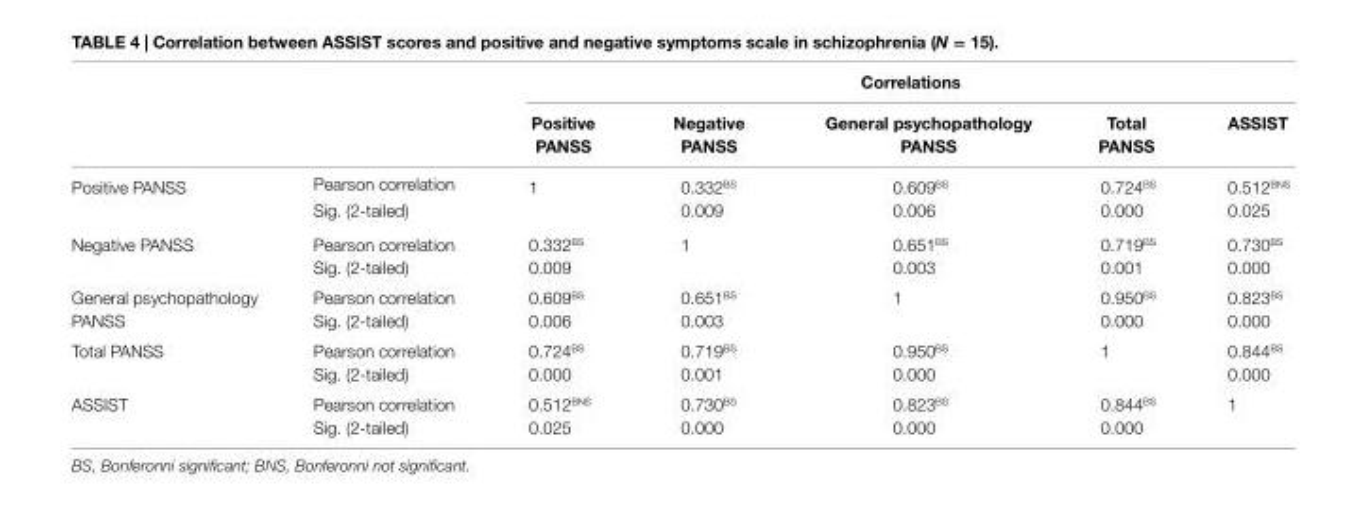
<table><thead><tr><td rowspan="2"></td><td rowspan="2"></td><td colspan="5">correlations</td></tr><tr><td>Positive Panss</td><td>negative Panss</td><td>general psychopathology Panss</td><td>Total Panss</td><td>assisT</td></tr></thead><tbody><tr><td rowspan="2">Positive PANSS</td><td>Pearson correlation</td><td>1</td><td>0.332<sup>BS</sup></td><td>0.609<sup>BS</sup></td><td>0.724<sup>BS</sup></td><td>0.512<sup>BNS</sup></td></tr><tr><td>Sig. (2-tailed)</td><td></td><td>0.009</td><td>0.006</td><td>0.000</td><td>0.025</td></tr><tr><td rowspan="2">Negative PANSS</td><td>Pearson correlation</td><td>0.332<sup>BS</sup></td><td>1</td><td>0.651<sup>BS</sup></td><td>0.719<sup>BS</sup></td><td>0.730<sup>BS</sup></td></tr><tr><td>Sig. (2-tailed)</td><td>0.009</td><td></td><td>0.003</td><td>0.001</td><td>0.000</td></tr><tr><td rowspan="2">General psychopathology PANSS</td><td>Pearson correlation</td><td>0.609<sup>BS</sup></td><td>0.651<sup>BS</sup></td><td>1</td><td>0.950<sup>BS</sup></td><td>0.823<sup>BS</sup></td></tr><tr><td>Sig. (2-tailed)</td><td>0.006</td><td>0.003</td><td></td><td>0.000</td><td>0.000</td></tr><tr><td rowspan="2">Total PANSS</td><td>Pearson correlation</td><td>0.724<sup>BS</sup></td><td>0.719<sup>BS</sup></td><td>0.950<sup>BS</sup></td><td>1</td><td>0.844<sup>BS</sup></td></tr><tr><td>Sig. (2-tailed)</td><td>0.000</td><td>0.001</td><td>0.000</td><td></td><td>0.000</td></tr><tr><td rowspan="2">ASSIST</td><td>Pearson correlation</td><td>0.512<sup>BNS</sup></td><td>0.730<sup>BS</sup></td><td>0.823<sup>BS</sup></td><td>0.844<sup>BS</sup></td><td>1</td></tr><tr><td>Sig. (2-tailed)</td><td>0.025</td><td>0.000</td><td>0.000</td><td>0.000</td><td></td></tr></tbody></table>